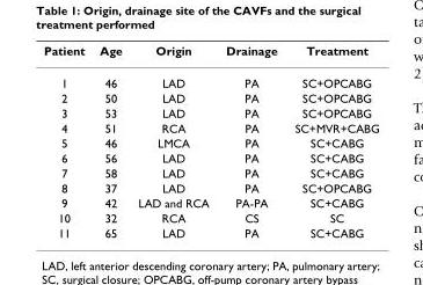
<table><thead><tr><td>Patient</td><td>Age</td><td>Origin</td><td>Drainage</td><td>Treatment</td></tr></thead><tbody><tr><td>1</td><td>46</td><td>LAD</td><td>PA</td><td>SC+OPCABG</td></tr><tr><td>2</td><td>50</td><td>LAD</td><td>PA</td><td>SC+OPCABG</td></tr><tr><td>3</td><td>53</td><td>LAD</td><td>PA</td><td>SC+OPCABG</td></tr><tr><td>4</td><td>51</td><td>RCA</td><td>PA</td><td>SC+MVR+CABG</td></tr><tr><td>5</td><td>46</td><td>LMCA</td><td>PA</td><td>SC+CABG</td></tr><tr><td>6</td><td>56</td><td>LAD</td><td>PA</td><td>SC+CABG</td></tr><tr><td>7</td><td>58</td><td>LAD</td><td>PA</td><td>SC+CABG</td></tr><tr><td>8</td><td>37</td><td>LAD</td><td>PA</td><td>SC+OPCABG</td></tr><tr><td>9</td><td>42</td><td>LAD and RCA</td><td>PA-PA</td><td>SC+CABG</td></tr><tr><td>10</td><td>32</td><td>RCA</td><td>CS</td><td>SC</td></tr><tr><td>11</td><td>65</td><td>LAD</td><td>PA</td><td>SC+CABG</td></tr></tbody></table>